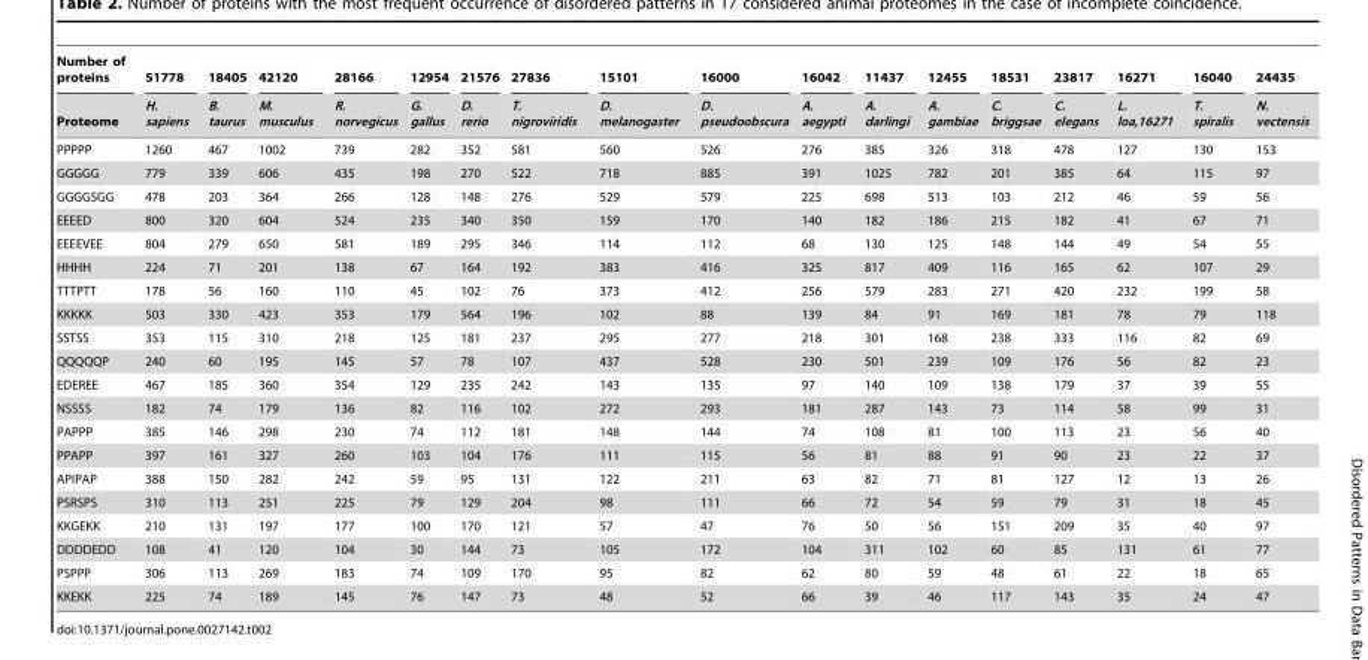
<table><thead><tr><td rowspan="2">Number of proteins Proteome</td><td rowspan="2">51778 H. sapiens</td><td rowspan="2">18405 B. taurus</td><td rowspan="2">42120 M. musculus</td><td rowspan="2">28166 R. norvegicus</td><td rowspan="2">12954 G. gallus</td><td rowspan="2">21576 D. rerio</td><td rowspan="2">27836 T. nigroviridis</td><td rowspan="2">15101 D. melanogaster</td><td rowspan="2">16000 D. pseudoobscura</td><td rowspan="2">16042 A. aegypti</td><td rowspan="2">11437 A. darlingi</td><td rowspan="2">12455 A. gambiae</td><td rowspan="2">18531 C. briggsae</td><td rowspan="2">23817 C. elegans</td><td rowspan="2">16271 L. loa,16271</td><td rowspan="2">16040 T. spiralis</td><td rowspan="2">24435 N. vectensis</td></tr><tr></tr></thead><tbody><tr><td>PPPPP</td><td>1260</td><td>467</td><td>1002</td><td>739</td><td>282</td><td>352</td><td>581</td><td>560</td><td>526</td><td>276</td><td>385</td><td>326</td><td>318</td><td>478</td><td>127</td><td>130</td><td>153</td></tr><tr><td>GGGGG</td><td>779</td><td>339</td><td>606</td><td>435</td><td>198</td><td>270</td><td>522</td><td>718</td><td>885</td><td>391</td><td>1025</td><td>782</td><td>201</td><td>385</td><td>64</td><td>115</td><td>97</td></tr><tr><td>GGGGSGG</td><td>478</td><td>203</td><td>364</td><td>266</td><td>128</td><td>148</td><td>276</td><td>529</td><td>579</td><td>225</td><td>698</td><td>513</td><td>103</td><td>212</td><td>46</td><td>59</td><td>56</td></tr><tr><td>EEEED</td><td>800</td><td>320</td><td>604</td><td>524</td><td>235</td><td>340</td><td>350</td><td>159</td><td>170</td><td>140</td><td>182</td><td>186</td><td>215</td><td>182</td><td>41</td><td>67</td><td>71</td></tr><tr><td>EEEEVEE</td><td>804</td><td>279</td><td>650</td><td>581</td><td>189</td><td>295</td><td>346</td><td>114</td><td>112</td><td>68</td><td>130</td><td>125</td><td>148</td><td>144</td><td>49</td><td>54</td><td>55</td></tr><tr><td>HHHH</td><td>224</td><td>71</td><td>201</td><td>138</td><td>67</td><td>164</td><td>192</td><td>383</td><td>416</td><td>325</td><td>817</td><td>409</td><td>116</td><td>165</td><td>62</td><td>107</td><td>29</td></tr><tr><td>TTTPTT</td><td>178</td><td>56</td><td>160</td><td>110</td><td>45</td><td>102</td><td>76</td><td>373</td><td>412</td><td>256</td><td>579</td><td>283</td><td>271</td><td>420</td><td>232</td><td>199</td><td>58</td></tr><tr><td>KKKKK</td><td>503</td><td>330</td><td>423</td><td>353</td><td>179</td><td>564</td><td>196</td><td>102</td><td>88</td><td>139</td><td>84</td><td>91</td><td>169</td><td>181</td><td>78</td><td>79</td><td>118</td></tr><tr><td>SSTSS</td><td>353</td><td>115</td><td>310</td><td>218</td><td>125</td><td>181</td><td>237</td><td>295</td><td>277</td><td>218</td><td>301</td><td>168</td><td>238</td><td>333</td><td>116</td><td>82</td><td>69</td></tr><tr><td>QQQQQP</td><td>240</td><td>60</td><td>195</td><td>145</td><td>57</td><td>78</td><td>107</td><td>437</td><td>528</td><td>230</td><td>501</td><td>239</td><td>109</td><td>176</td><td>56</td><td>82</td><td>23</td></tr><tr><td>EDEREE</td><td>467</td><td>185</td><td>360</td><td>354</td><td>129</td><td>235</td><td>242</td><td>143</td><td>135</td><td>97</td><td>140</td><td>109</td><td>138</td><td>179</td><td>37</td><td>39</td><td>55</td></tr><tr><td>NSSSS</td><td>182</td><td>74</td><td>179</td><td>136</td><td>82</td><td>116</td><td>102</td><td>272</td><td>293</td><td>181</td><td>287</td><td>143</td><td>73</td><td>114</td><td>58</td><td>99</td><td>31</td></tr><tr><td>PAPPP</td><td>385</td><td>146</td><td>298</td><td>230</td><td>74</td><td>112</td><td>181</td><td>148</td><td>144</td><td>74</td><td>108</td><td>81</td><td>100</td><td>113</td><td>23</td><td>56</td><td>40</td></tr><tr><td>PPAPP</td><td>397</td><td>161</td><td>327</td><td>260</td><td>103</td><td>104</td><td>176</td><td>111</td><td>115</td><td>56</td><td>81</td><td>88</td><td>91</td><td>90</td><td>23</td><td>22</td><td>37</td></tr><tr><td>APIPAP</td><td>388</td><td>150</td><td>282</td><td>242</td><td>59</td><td>95</td><td>131</td><td>122</td><td>211</td><td>63</td><td>82</td><td>71</td><td>81</td><td>127</td><td>12</td><td>13</td><td>26</td></tr><tr><td>PSRSPS</td><td>310</td><td>113</td><td>251</td><td>225</td><td>79</td><td>129</td><td>204</td><td>98</td><td>111</td><td>66</td><td>72</td><td>54</td><td>59</td><td>79</td><td>31</td><td>18</td><td>45</td></tr><tr><td>KKGEKK</td><td>210</td><td>131</td><td>197</td><td>177</td><td>100</td><td>170</td><td>121</td><td>57</td><td>47</td><td>76</td><td>50</td><td>56</td><td>151</td><td>209</td><td>35</td><td>40</td><td>97</td></tr><tr><td>DDDDEDD</td><td>108</td><td>41</td><td>120</td><td>104</td><td>30</td><td>144</td><td>73</td><td>105</td><td>172</td><td>104</td><td>311</td><td>102</td><td>60</td><td>85</td><td>131</td><td>61</td><td>77</td></tr><tr><td>PSPPP</td><td>306</td><td>113</td><td>269</td><td>183</td><td>74</td><td>109</td><td>170</td><td>95</td><td>82</td><td>62</td><td>80</td><td>59</td><td>48</td><td>61</td><td>22</td><td>18</td><td>65</td></tr><tr><td>KKEKK</td><td>225</td><td>74</td><td>189</td><td>145</td><td>76</td><td>147</td><td>73</td><td>48</td><td>52</td><td>66</td><td>39</td><td>46</td><td>117</td><td>143</td><td>35</td><td>24</td><td>47</td></tr></tbody></table>